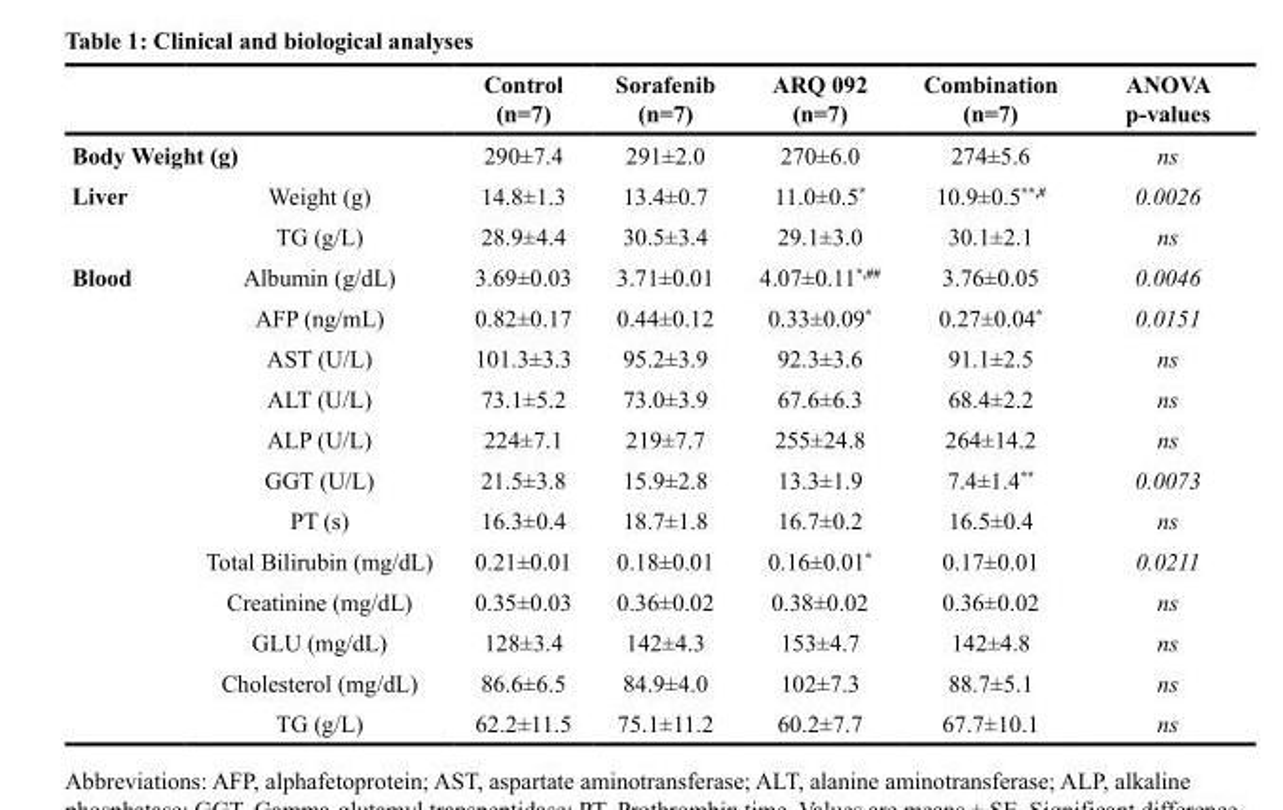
<table><thead><tr><td></td><td></td><td>Control (n=7)</td><td>Sorafenib (n=7)</td><td>ARQ 092 (n=7)</td><td>Combination (n=7)</td><td>ANOVA p-values</td></tr></thead><tbody><tr><td colspan="2">Body Weight (g)</td><td>290±7.4</td><td>291±2.0</td><td>270±6.0</td><td>274±5.6</td><td>ns</td></tr><tr><td rowspan="2">Liver</td><td>Weight (g)</td><td>14.8±1.3</td><td>13.4±0.7</td><td>11.0±0.5*</td><td>10.9±0.5<sup>**,#</sup></td><td>0.0026</td></tr><tr><td>TG (g/L)</td><td>28.9±4.4</td><td>30.5±3.4</td><td>29.1±3.0</td><td>30.1±2.1</td><td>ns</td></tr><tr><td rowspan="12">Blood</td><td>Albumin (g/dL)</td><td>3.69±0.03</td><td>3.71±0.01</td><td>4.07±0.11<sup>*,##</sup></td><td>3.76±0.05</td><td>0.0046</td></tr><tr><td>AFP (ng/mL)</td><td>0.82±0.17</td><td>0.44±0.12</td><td>0.33±0.09*</td><td>0.27±0.04*</td><td>0.0151</td></tr><tr><td>AST (U/L)</td><td>101.3±3.3</td><td>95.2±3.9</td><td>92.3±3.6</td><td>91.1±2.5</td><td>ns</td></tr><tr><td>ALT (U/L)</td><td>73.1±5.2</td><td>73.0±3.9</td><td>67.6±6.3</td><td>68.4±2.2</td><td>ns</td></tr><tr><td>ALP (U/L)</td><td>224±7.1</td><td>219±7.7</td><td>255±24.8</td><td>264±14.2</td><td>ns</td></tr><tr><td>GGT (U/L)</td><td>21.5±3.8</td><td>15.9±2.8</td><td>13.3±1.9</td><td>7.4±1.4**</td><td>0.0073</td></tr><tr><td>PT (s)</td><td>16.3±0.4</td><td>18.7±1.8</td><td>16.7±0.2</td><td>16.5±0.4</td><td>ns</td></tr><tr><td>Total Bilirubin (mg/dL)</td><td>0.21±0.01</td><td>0.18±0.01</td><td>0.16±0.01*</td><td>0.17±0.01</td><td>0.0211</td></tr><tr><td>Creatinine (mg/dL)</td><td>0.35±0.03</td><td>0.36±0.02</td><td>0.38±0.02</td><td>0.36±0.02</td><td>ns</td></tr><tr><td>GLU (mg/dL)</td><td>128±3.4</td><td>142±4.3</td><td>153±4.7</td><td>142±4.8</td><td>ns</td></tr><tr><td>Cholesterol (mg/dL)</td><td>86.6±6.5</td><td>84.9±4.0</td><td>102±7.3</td><td>88.7±5.1</td><td>ns</td></tr><tr><td>TG (g/L)</td><td>62.2±11.5</td><td>75.1±11.2</td><td>60.2±7.7</td><td>67.7±10.1</td><td>ns</td></tr></tbody></table>